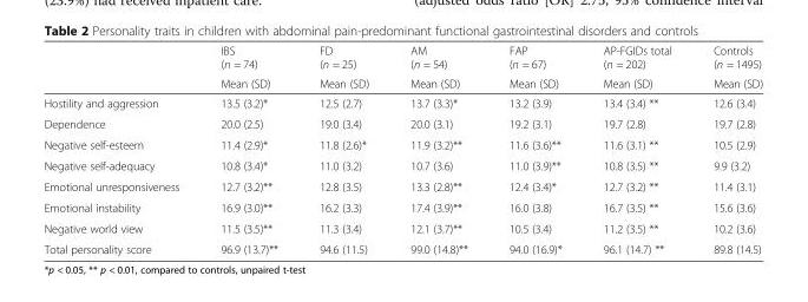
<table><thead><tr><td rowspan="2"></td><td rowspan="2">IBS (n = 74) Mean (SD)</td><td rowspan="2">FD (n = 25) Mean (SD)</td><td rowspan="2">AM (n = 54) Mean (SD)</td><td rowspan="2">FAP (n = 67) Mean (SD)</td><td rowspan="2">AP-FGIDs total (n = 202) Mean (SD)</td><td rowspan="2">Controls (n = 1495) Mean (SD)</td></tr><tr></tr></thead><tbody><tr><td>Hostility and aggression</td><td>13.5 (3.2)*</td><td>12.5 (2.7)</td><td>13.7 (3.3)*</td><td>13.2 (3.9)</td><td>13.4 (3.4) **</td><td>12.6 (3.4)</td></tr><tr><td>Dependence</td><td>20.0 (2.5)</td><td>19.0 (3.4)</td><td>20.0 (3.1)</td><td>19.2 (3.1)</td><td>19.7 (2.8)</td><td>19.7 (2.8)</td></tr><tr><td>Negative self-esteem</td><td>11.4 (2.9)*</td><td>11.8 (2.6)*</td><td>11.9 (3.2)**</td><td>11.6 (3.6)**</td><td>11.6 (3.1) **</td><td>10.5 (2.9)</td></tr><tr><td>Negative self-adequacy</td><td>10.8 (3.4)*</td><td>11.0 (3.2)</td><td>10.7 (3.6)</td><td>11.0 (3.9)**</td><td>10.8 (3.5) **</td><td>9.9 (3.2)</td></tr><tr><td>Emotional unresponsiveness</td><td>12.7 (3.2)**</td><td>12.8 (3.5)</td><td>13.3 (2.8)**</td><td>12.4 (3.4)*</td><td>12.7 (3.2) **</td><td>11.4 (3.1)</td></tr><tr><td>Emotional instability</td><td>16.9 (3.0)**</td><td>16.2 (3.3)</td><td>17.4 (3.9)**</td><td>16.0 (3.8)</td><td>16.7 (3.5) **</td><td>15.6 (3.6)</td></tr><tr><td>Negative world view</td><td>11.5 (3.5)**</td><td>11.3 (3.4)</td><td>12.1 (3.7)**</td><td>10.5 (3.4)</td><td>11.2 (3.5) **</td><td>10.2 (3.6)</td></tr><tr><td>Total personality score</td><td>96.9 (13.7)**</td><td>94.6 (11.5)</td><td>99.0 (14.8)**</td><td>94.0 (16.9)*</td><td>96.1 (14.7) **</td><td>89.8 (14.5)</td></tr></tbody></table>